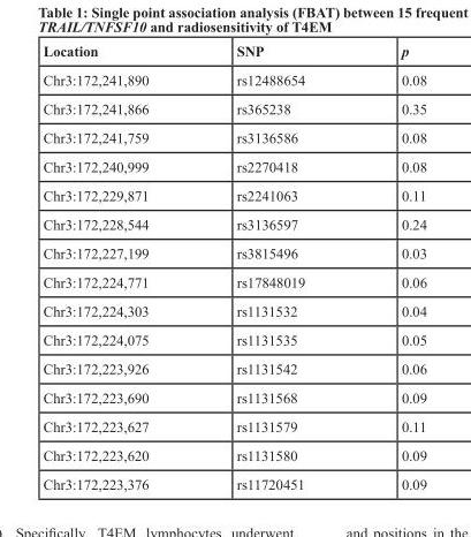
<table><thead><tr><td>Location</td><td>SNP</td><td>p</td></tr></thead><tbody><tr><td>Chr3:172,241,890</td><td>rs12488654</td><td>0.08</td></tr><tr><td>Chr3:172,241,866</td><td>rs365238</td><td>0.35</td></tr><tr><td>Chr3:172,241,759</td><td>rs3136586</td><td>0.08</td></tr><tr><td>Chr3:172,240,999</td><td>rs2270418</td><td>0.08</td></tr><tr><td>Chr3:172,229,871</td><td>rs2241063</td><td>0.11</td></tr><tr><td>Chr3:172,228,544</td><td>rs3136597</td><td>0.24</td></tr><tr><td>Chr3:172,227,199</td><td>rs3815496</td><td>0.03</td></tr><tr><td>Chr3:172,224,771</td><td>rs17848019</td><td>0.06</td></tr><tr><td>Chr3:172,224,303</td><td>rs1131532</td><td>0.04</td></tr><tr><td>Chr3:172,224,075</td><td>rs1131535</td><td>0.05</td></tr><tr><td>Chr3:172,223,926</td><td>rs1131542</td><td>0.06</td></tr><tr><td>Chr3:172,223,690</td><td>rs1131568</td><td>0.09</td></tr><tr><td>Chr3:172,223,627</td><td>rs1131579</td><td>0.11</td></tr><tr><td>Chr3:172,223,620</td><td>rs1131580</td><td>0.09</td></tr><tr><td>Chr3:172,223,376</td><td>rs11720451</td><td>0.09</td></tr></tbody></table>